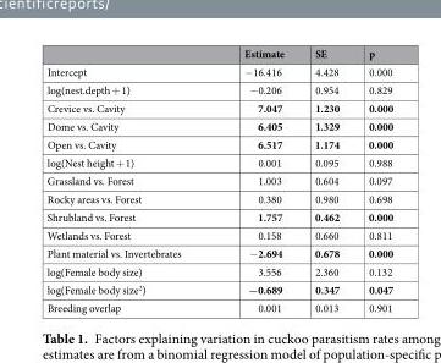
<table><thead><tr><td></td><td>Estimate</td><td>SE</td><td>p</td></tr></thead><tbody><tr><td>Intercept</td><td>−16.416</td><td>4.428</td><td>0.000</td></tr><tr><td>log(nest.depth + 1)</td><td>−0.206</td><td>0.954</td><td>0.829</td></tr><tr><td>Crevice vs. Cavity</td><td>7.047</td><td>1.230</td><td>0.000</td></tr><tr><td>Dome vs. Cavity</td><td>6.405</td><td>1.329</td><td>0.000</td></tr><tr><td>Open vs. Cavity</td><td>6.517</td><td>1.174</td><td>0.000</td></tr><tr><td>log(Nest height + 1)</td><td>0.001</td><td>0.095</td><td>0.988</td></tr><tr><td>Grassland vs. Forest</td><td>1.003</td><td>0.604</td><td>0.097</td></tr><tr><td>Rocky areas vs. Forest</td><td>0.380</td><td>0.980</td><td>0.698</td></tr><tr><td>Shrubland vs. Forest</td><td>1.757</td><td>0.462</td><td>0.000</td></tr><tr><td>Wetlands vs. Forest</td><td>0.158</td><td>0.660</td><td>0.811</td></tr><tr><td>Plant material vs. Invertebrates</td><td>−2.694</td><td>0.678</td><td>0.000</td></tr><tr><td>log(Female body size)</td><td>3.556</td><td>2.360</td><td>0.132</td></tr><tr><td>log(Female body size<sup>2</sup>)</td><td>−0.689</td><td>0.347</td><td>0.047</td></tr><tr><td>Breeding overlap</td><td>0.001</td><td>0.013</td><td>0.901</td></tr></tbody></table>